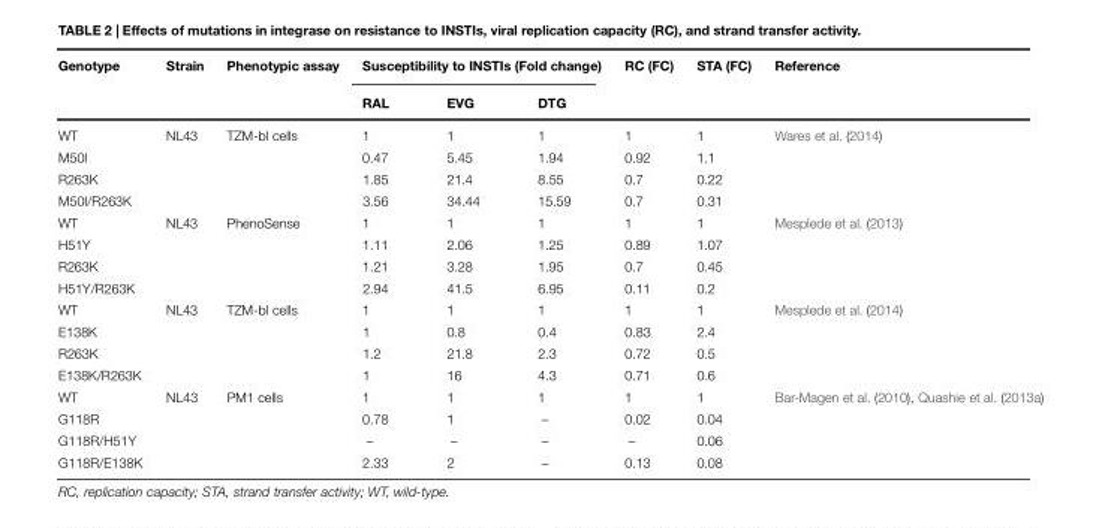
<table><thead><tr><td rowspan="2">Genotype</td><td rowspan="2">Strain</td><td rowspan="2">Phenotypic assay</td><td colspan="3">Susceptibility to INSTIs (Fold change)</td><td rowspan="2">RC (FC)</td><td rowspan="2">STA (FC)</td><td rowspan="2">Reference</td></tr><tr><td>RAL</td><td>EVG</td><td>DTG</td></tr></thead><tbody><tr><td>WT</td><td>NL43</td><td>TZM-bl cells</td><td>1</td><td>1</td><td>1</td><td>1</td><td>1</td><td>Wares et al. (2014)</td></tr><tr><td>M50I</td><td></td><td></td><td>0.47</td><td>5.45</td><td>1.94</td><td>0.92</td><td>1.1</td><td></td></tr><tr><td>R263K</td><td></td><td></td><td>1.85</td><td>21.4</td><td>8.55</td><td>0.7</td><td>0.22</td><td></td></tr><tr><td>M50I/R263K</td><td></td><td></td><td>3.56</td><td>34.44</td><td>15.59</td><td>0.7</td><td>0.31</td><td></td></tr><tr><td>WT</td><td>NL43</td><td>PhenoSense</td><td>1</td><td>1</td><td>1</td><td>1</td><td>1</td><td>Mesplede et al. (2013)</td></tr><tr><td>H51Y</td><td></td><td></td><td>1.11</td><td>2.06</td><td>1.25</td><td>0.89</td><td>1.07</td><td></td></tr><tr><td>R263K</td><td></td><td></td><td>1.21</td><td>3.28</td><td>1.95</td><td>0.7</td><td>0.45</td><td></td></tr><tr><td>H51Y/R263K</td><td></td><td></td><td>2.94</td><td>41.5</td><td>6.95</td><td>0.11</td><td>0.2</td><td></td></tr><tr><td>WT</td><td>NL43</td><td>TZM-bl cells</td><td>1</td><td>1</td><td>1</td><td>1</td><td>1</td><td>Mesplede et al. (2014)</td></tr><tr><td>E138K</td><td></td><td></td><td>1</td><td>0.8</td><td>0.4</td><td>0.83</td><td>2.4</td><td></td></tr><tr><td>R263K</td><td></td><td></td><td>1.2</td><td>21.8</td><td>2.3</td><td>0.72</td><td>0.5</td><td></td></tr><tr><td>E138K/R263K</td><td></td><td></td><td>1</td><td>16</td><td>4.3</td><td>0.71</td><td>0.6</td><td></td></tr><tr><td>WT</td><td>NL43</td><td>PM1 cells</td><td>1</td><td>1</td><td>1</td><td>1</td><td>1</td><td>Bar-Magen et al. (2010), Quashie et al. (2013a)</td></tr><tr><td>G118R</td><td></td><td></td><td>0.78</td><td>1</td><td>–</td><td>0.02</td><td>0.04</td><td></td></tr><tr><td>G118R/H51Y</td><td></td><td></td><td>–</td><td>–</td><td>–</td><td>–</td><td>0.06</td><td></td></tr><tr><td>G118R/E138K</td><td></td><td></td><td>2.33</td><td>2</td><td>–</td><td>0.13</td><td>0.08</td><td></td></tr></tbody></table>